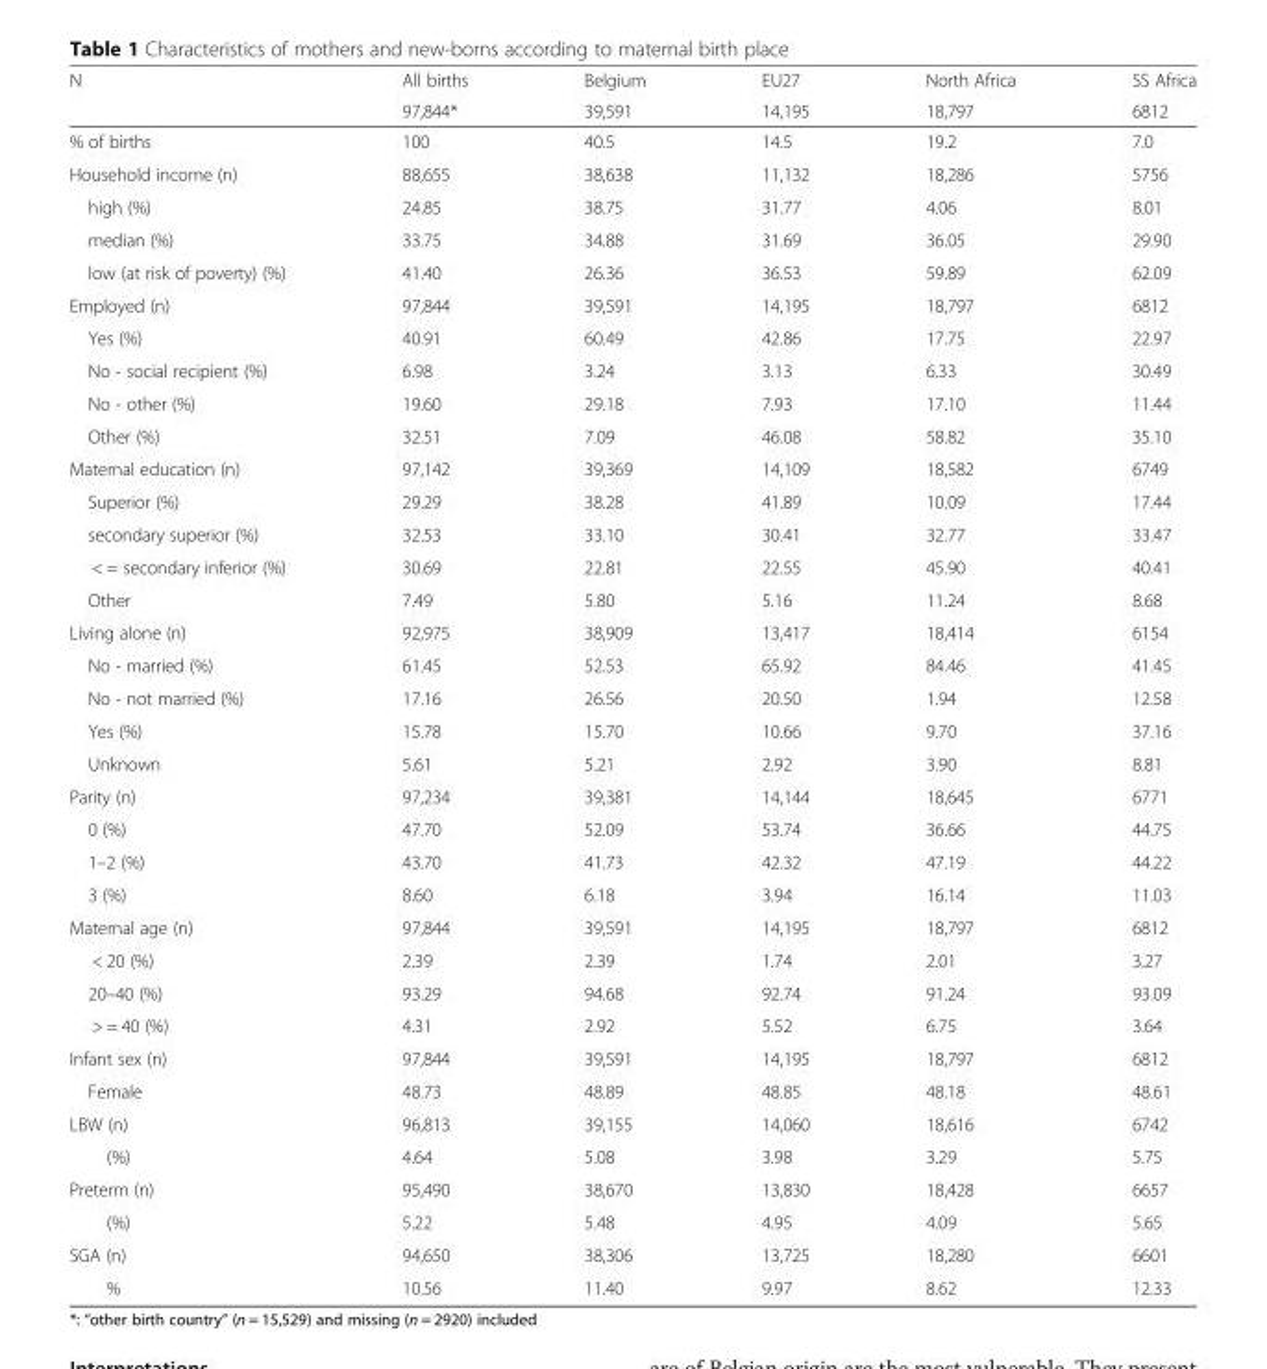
<table><thead><tr><td rowspan="2">N</td><td rowspan="2">All births 97,844*</td><td rowspan="2">Belgium 39,591</td><td rowspan="2">EU27 14,195</td><td rowspan="2">North Africa 18,797</td><td rowspan="2">SS Africa 6812</td></tr><tr></tr></thead><tbody><tr><td>% of births</td><td>100</td><td>40.5</td><td>14.5</td><td>19.2</td><td>7.0</td></tr><tr><td>Household income (n)</td><td>88,655</td><td>38,638</td><td>11,132</td><td>18,286</td><td>5756</td></tr><tr><td>high (%)</td><td>24.85</td><td>38.75</td><td>31.77</td><td>4.06</td><td>8.01</td></tr><tr><td>median (%)</td><td>33.75</td><td>34.88</td><td>31.69</td><td>36.05</td><td>29.90</td></tr><tr><td>low (at risk of poverty) (%)</td><td>41.40</td><td>26.36</td><td>36.53</td><td>59.89</td><td>62.09</td></tr><tr><td>Employed (n)</td><td>97,844</td><td>39,591</td><td>14,195</td><td>18,797</td><td>6812</td></tr><tr><td>Yes (%)</td><td>40.91</td><td>60.49</td><td>42.86</td><td>17.75</td><td>22.97</td></tr><tr><td>No - social recipient (%)</td><td>6.98</td><td>3.24</td><td>3.13</td><td>6.33</td><td>30.49</td></tr><tr><td>No - other (%)</td><td>19.60</td><td>29.18</td><td>7.93</td><td>17.10</td><td>11.44</td></tr><tr><td>Other (%)</td><td>32.51</td><td>7.09</td><td>46.08</td><td>58.82</td><td>35.10</td></tr><tr><td>Maternal education (n)</td><td>97,142</td><td>39,369</td><td>14,109</td><td>18,582</td><td>6749</td></tr><tr><td>Superior (%)</td><td>29.29</td><td>38.28</td><td>41.89</td><td>10.09</td><td>17.44</td></tr><tr><td>secondary superior (%)</td><td>32.53</td><td>33.10</td><td>30.41</td><td>32.77</td><td>33.47</td></tr><tr><td>&lt; = secondary inferior (%)</td><td>30.69</td><td>22.81</td><td>22.55</td><td>45.90</td><td>40.41</td></tr><tr><td>Other</td><td>7.49</td><td>5.80</td><td>5.16</td><td>11.24</td><td>8.68</td></tr><tr><td>Living alone (n)</td><td>92,975</td><td>38,909</td><td>13,417</td><td>18,414</td><td>6154</td></tr><tr><td>No - married (%)</td><td>61.45</td><td>52.53</td><td>65.92</td><td>84.46</td><td>41.45</td></tr><tr><td>No - not married (%)</td><td>17.16</td><td>26.56</td><td>20.50</td><td>1.94</td><td>12.58</td></tr><tr><td>Yes (%)</td><td>15.78</td><td>15.70</td><td>10.66</td><td>9.70</td><td>37.16</td></tr><tr><td>Unknown</td><td>5.61</td><td>5.21</td><td>2.92</td><td>3.90</td><td>8.81</td></tr><tr><td>Parity (n)</td><td>97,234</td><td>39,381</td><td>14,144</td><td>18,645</td><td>6771</td></tr><tr><td>0 (%)</td><td>47.70</td><td>52.09</td><td>53.74</td><td>36.66</td><td>44.75</td></tr><tr><td>1–2 (%)</td><td>43.70</td><td>41.73</td><td>42.32</td><td>47.19</td><td>44.22</td></tr><tr><td>3 (%)</td><td>8.60</td><td>6.18</td><td>3.94</td><td>16.14</td><td>11.03</td></tr><tr><td>Maternal age (n)</td><td>97,844</td><td>39,591</td><td>14,195</td><td>18,797</td><td>6812</td></tr><tr><td>&lt; 20 (%)</td><td>2.39</td><td>2.39</td><td>1.74</td><td>2.01</td><td>3.27</td></tr><tr><td>20–40 (%)</td><td>93.29</td><td>94.68</td><td>92.74</td><td>91.24</td><td>93.09</td></tr><tr><td>&gt; = 40 (%)</td><td>4.31</td><td>2.92</td><td>5.52</td><td>6.75</td><td>3.64</td></tr><tr><td>Infant sex (n)</td><td>97,844</td><td>39,591</td><td>14,195</td><td>18,797</td><td>6812</td></tr><tr><td>Female</td><td>48.73</td><td>48.89</td><td>48.85</td><td>48.18</td><td>48.61</td></tr><tr><td>LBW (n)</td><td>96,813</td><td>39,155</td><td>14,060</td><td>18,616</td><td>6742</td></tr><tr><td>(%)</td><td>4.64</td><td>5.08</td><td>3.98</td><td>3.29</td><td>5.75</td></tr><tr><td>Preterm (n)</td><td>95,490</td><td>38,670</td><td>13,830</td><td>18,428</td><td>6657</td></tr><tr><td>(%)</td><td>5.22</td><td>5.48</td><td>4.95</td><td>4.09</td><td>5.65</td></tr><tr><td>SGA (n)</td><td>94,650</td><td>38,306</td><td>13,725</td><td>18,280</td><td>6601</td></tr><tr><td>%</td><td>10.56</td><td>11.40</td><td>9.97</td><td>8.62</td><td>12.33</td></tr></tbody></table>